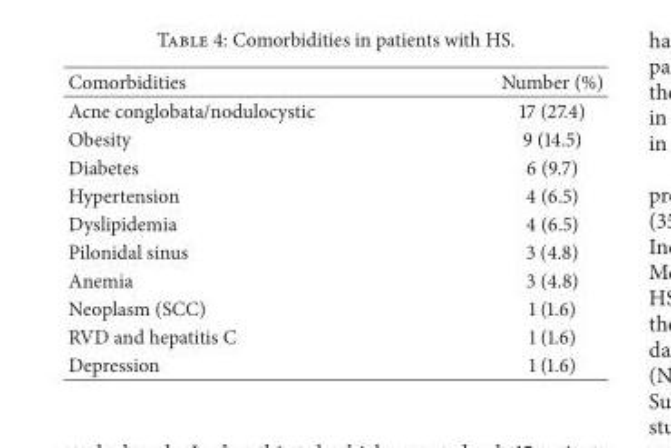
<table><thead><tr><td>Comorbidities</td><td>Number (%)</td></tr></thead><tbody><tr><td>Acne conglobata/nodulocystic</td><td>17 (27.4)</td></tr><tr><td>Obesity</td><td>9 (14.5)</td></tr><tr><td>Diabetes</td><td>6 (9.7)</td></tr><tr><td>Hypertension</td><td>4 (6.5)</td></tr><tr><td>Dyslipidemia</td><td>4 (6.5)</td></tr><tr><td>Pilonidal sinus</td><td>3 (4.8)</td></tr><tr><td>Anemia</td><td>3 (4.8)</td></tr><tr><td>Neoplasm (SCC)</td><td>1 (1.6)</td></tr><tr><td>RVD and hepatitis C</td><td>1 (1.6)</td></tr><tr><td>Depression</td><td>1 (1.6)</td></tr></tbody></table>